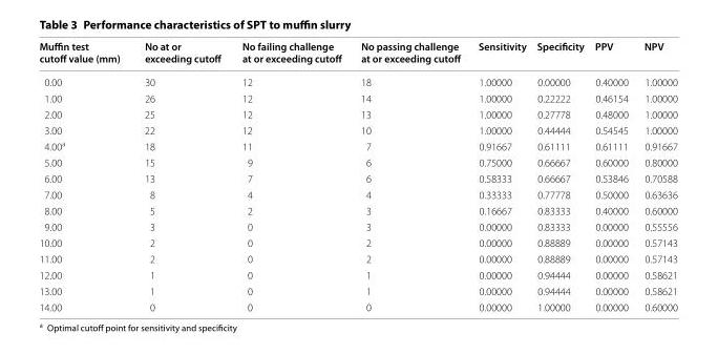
<table><thead><tr><td>Muffin test cutoff value (mm)</td><td>No at or exceeding cutoff</td><td>No failing challenge at or exceeding cutoff</td><td>No passing challenge at or exceeding cutoff</td><td>Sensitivity</td><td>Specificity</td><td>PPV</td><td>NPV</td></tr></thead><tbody><tr><td>0.00</td><td>30</td><td>12</td><td>18</td><td>1.00000</td><td>0.00000</td><td>0.40000</td><td>1.00000</td></tr><tr><td>1.00</td><td>26</td><td>12</td><td>14</td><td>1.00000</td><td>0.22222</td><td>0.46154</td><td>1.00000</td></tr><tr><td>2.00</td><td>25</td><td>12</td><td>13</td><td>1.00000</td><td>0.27778</td><td>0.48000</td><td>1.00000</td></tr><tr><td>3.00</td><td>22</td><td>12</td><td>10</td><td>1.00000</td><td>0.44444</td><td>0.54545</td><td>1.00000</td></tr><tr><td>4.00<sup>a</sup></td><td>18</td><td>11</td><td>7</td><td>0.91667</td><td>0.61111</td><td>0.61111</td><td>0.91667</td></tr><tr><td>5.00</td><td>15</td><td>9</td><td>6</td><td>0.75000</td><td>0.66667</td><td>0.60000</td><td>0.80000</td></tr><tr><td>6.00</td><td>13</td><td>7</td><td>6</td><td>0.58333</td><td>0.66667</td><td>0.53846</td><td>0.70588</td></tr><tr><td>7.00</td><td>8</td><td>4</td><td>4</td><td>0.33333</td><td>0.77778</td><td>0.50000</td><td>0.63636</td></tr><tr><td>8.00</td><td>5</td><td>2</td><td>3</td><td>0.16667</td><td>0.83333</td><td>0.40000</td><td>0.60000</td></tr><tr><td>9.00</td><td>3</td><td>0</td><td>3</td><td>0.00000</td><td>0.83333</td><td>0.00000</td><td>0.55556</td></tr><tr><td>10.00</td><td>2</td><td>0</td><td>2</td><td>0.00000</td><td>0.88889</td><td>0.00000</td><td>0.57143</td></tr><tr><td>11.00</td><td>2</td><td>0</td><td>2</td><td>0.00000</td><td>0.88889</td><td>0.00000</td><td>0.57143</td></tr><tr><td>12.00</td><td>1</td><td>0</td><td>1</td><td>0.00000</td><td>0.94444</td><td>0.00000</td><td>0.58621</td></tr><tr><td>13.00</td><td>1</td><td>0</td><td>1</td><td>0.00000</td><td>0.94444</td><td>0.00000</td><td>0.58621</td></tr><tr><td>14.00</td><td>0</td><td>0</td><td>0</td><td>0.00000</td><td>1.00000</td><td>0.00000</td><td>0.60000</td></tr></tbody></table>